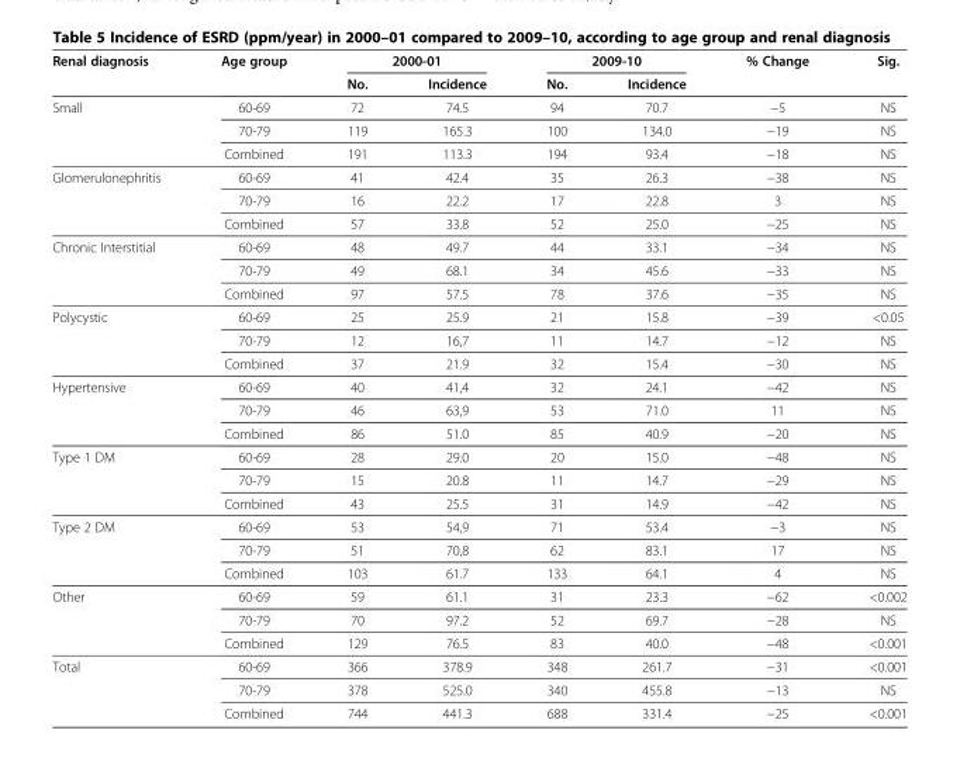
<table><thead><tr><td rowspan="2">Renal diagnosis</td><td rowspan="2">Age group</td><td colspan="2">2000-01</td><td colspan="2">2009-10</td><td rowspan="2">% Change</td><td rowspan="2">Sig.</td></tr><tr><td>No.</td><td>Incidence</td><td>No.</td><td>Incidence</td></tr></thead><tbody><tr><td rowspan="3">Small</td><td>60-69</td><td>72</td><td>74.5</td><td>94</td><td>70.7</td><td>−5</td><td>NS</td></tr><tr><td>70-79</td><td>119</td><td>165.3</td><td>100</td><td>134.0</td><td>−19</td><td>NS</td></tr><tr><td>Combined</td><td>191</td><td>113.3</td><td>194</td><td>93.4</td><td>−18</td><td>NS</td></tr><tr><td rowspan="3">Glomerulonephritis</td><td>60-69</td><td>41</td><td>42.4</td><td>35</td><td>26.3</td><td>−38</td><td>NS</td></tr><tr><td>70-79</td><td>16</td><td>22.2</td><td>17</td><td>22.8</td><td>3</td><td>NS</td></tr><tr><td>Combined</td><td>57</td><td>33.8</td><td>52</td><td>25.0</td><td>−25</td><td>NS</td></tr><tr><td rowspan="3">Chronic Interstitial</td><td>60-69</td><td>48</td><td>49.7</td><td>44</td><td>33.1</td><td>−34</td><td>NS</td></tr><tr><td>70-79</td><td>49</td><td>68.1</td><td>34</td><td>45.6</td><td>−33</td><td>NS</td></tr><tr><td>Combined</td><td>97</td><td>57.5</td><td>78</td><td>37.6</td><td>−35</td><td>NS</td></tr><tr><td rowspan="3">Polycystic</td><td>60-69</td><td>25</td><td>25.9</td><td>21</td><td>15.8</td><td>−39</td><td>&lt;0.05</td></tr><tr><td>70-79</td><td>12</td><td>16,7</td><td>11</td><td>14.7</td><td>−12</td><td>NS</td></tr><tr><td>Combined</td><td>37</td><td>21.9</td><td>32</td><td>15.4</td><td>−30</td><td>NS</td></tr><tr><td rowspan="3">Hypertensive</td><td>60-69</td><td>40</td><td>41,4</td><td>32</td><td>24.1</td><td>−42</td><td>NS</td></tr><tr><td>70-79</td><td>46</td><td>63,9</td><td>53</td><td>71.0</td><td>11</td><td>NS</td></tr><tr><td>Combined</td><td>86</td><td>51.0</td><td>85</td><td>40.9</td><td>−20</td><td>NS</td></tr><tr><td rowspan="3">Type 1 DM</td><td>60-69</td><td>28</td><td>29.0</td><td>20</td><td>15.0</td><td>−48</td><td>NS</td></tr><tr><td>70-79</td><td>15</td><td>20.8</td><td>11</td><td>14.7</td><td>−29</td><td>NS</td></tr><tr><td>Combined</td><td>43</td><td>25.5</td><td>31</td><td>14.9</td><td>−42</td><td>NS</td></tr><tr><td rowspan="3">Type 2 DM</td><td>60-69</td><td>53</td><td>54,9</td><td>71</td><td>53.4</td><td>−3</td><td>NS</td></tr><tr><td>70-79</td><td>51</td><td>70,8</td><td>62</td><td>83.1</td><td>17</td><td>NS</td></tr><tr><td>Combined</td><td>103</td><td>61.7</td><td>133</td><td>64.1</td><td>4</td><td>NS</td></tr><tr><td rowspan="3">Other</td><td>60-69</td><td>59</td><td>61.1</td><td>31</td><td>23.3</td><td>−62</td><td>&lt;0.002</td></tr><tr><td>70-79</td><td>70</td><td>97.2</td><td>52</td><td>69.7</td><td>−28</td><td>NS</td></tr><tr><td>Combined</td><td>129</td><td>76.5</td><td>83</td><td>40.0</td><td>−48</td><td>&lt;0.001</td></tr><tr><td rowspan="3">Total</td><td>60-69</td><td>366</td><td>378.9</td><td>348</td><td>261.7</td><td>−31</td><td>&lt;0.001</td></tr><tr><td>70-79</td><td>378</td><td>525.0</td><td>340</td><td>455.8</td><td>−13</td><td>NS</td></tr><tr><td>Combined</td><td>744</td><td>441.3</td><td>688</td><td>331.4</td><td>−25</td><td>&lt;0.001</td></tr></tbody></table>